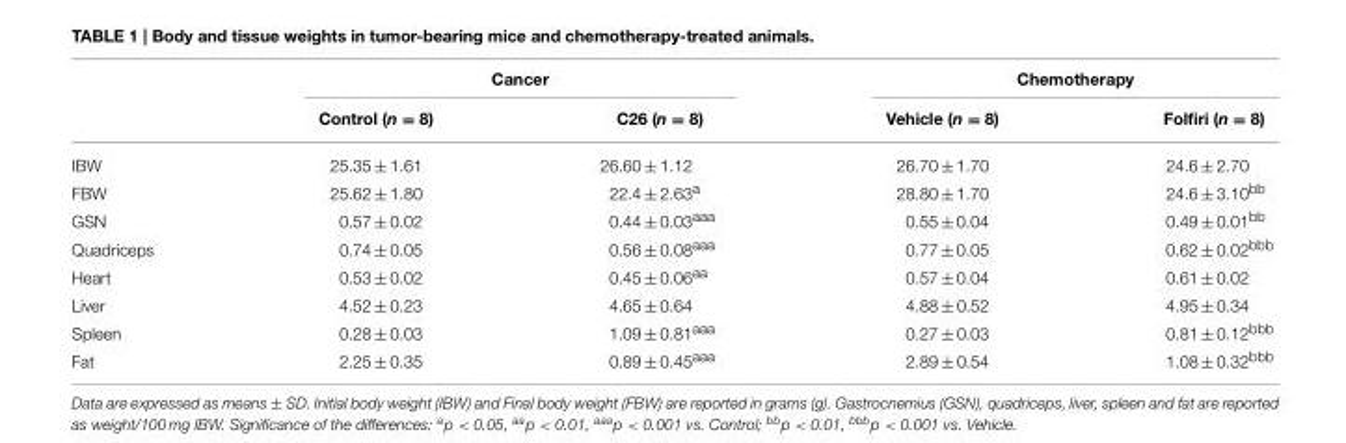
<table><thead><tr><td rowspan="2"></td><td colspan="2">Cancer</td><td colspan="2">Chemotherapy</td></tr><tr><td>Control (n = 8)</td><td>C26 (n = 8)</td><td>Vehicle (n = 8)</td><td>Folfiri (n = 8)</td></tr></thead><tbody><tr><td>IBW</td><td>25.35 ± 1.61</td><td>26.60 ± 1.12</td><td>26.70 ± 1.70</td><td>24.6 ± 2.70</td></tr><tr><td>FBW</td><td>25.62 ± 1.80</td><td>22.4 ± 2.63<sup>a</sup></td><td>28.80 ± 1.70</td><td>24.6 ± 3.10<sup>bb</sup></td></tr><tr><td>GSN</td><td>0.57 ± 0.02</td><td>0.44 ± 0.03<sup>aaa</sup></td><td>0.55 ± 0.04</td><td>0.49 ± 0.01<sup>bb</sup></td></tr><tr><td>Quadriceps</td><td>0.74 ± 0.05</td><td>0.56 ± 0.08<sup>aaa</sup></td><td>0.77 ± 0.05</td><td>0.62 ± 0.02<sup>bbb</sup></td></tr><tr><td>Heart</td><td>0.53 ± 0.02</td><td>0.45 ± 0.06<sup>aa</sup></td><td>0.57 ± 0.04</td><td>0.61 ± 0.02</td></tr><tr><td>Liver</td><td>4.52 ± 0.23</td><td>4.65 ± 0.64</td><td>4.88 ± 0.52</td><td>4.95 ± 0.34</td></tr><tr><td>Spleen</td><td>0.28 ± 0.03</td><td>1.09 ± 0.81<sup>aaa</sup></td><td>0.27 ± 0.03</td><td>0.81 ± 0.12<sup>bbb</sup></td></tr><tr><td>Fat</td><td>2.25 ± 0.35</td><td>0.89 ± 0.45<sup>aaa</sup></td><td>2.89 ± 0.54</td><td>1.08 ± 0.32<sup>bbb</sup></td></tr></tbody></table>